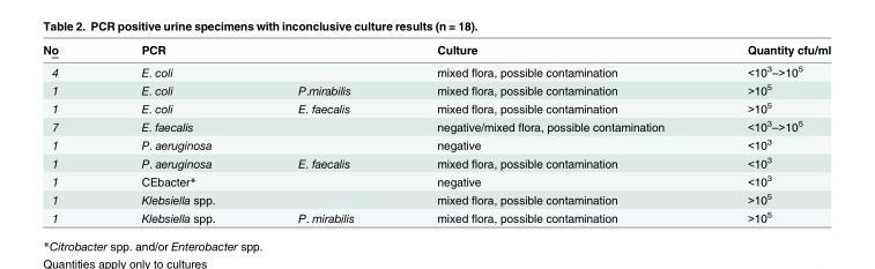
<table><thead><tr><td>No</td><td>PCR</td><td></td><td>Culture</td><td>Quantity cfu/ml</td></tr></thead><tbody><tr><td>4</td><td>E. coli</td><td></td><td>mixed flora, possible contamination</td><td>&lt;10<sup>3</sup>–&gt;10<sup>5</sup></td></tr><tr><td>1</td><td>E. coli</td><td>P.mirabilis</td><td>mixed flora, possible contamination</td><td>&gt;10<sup>5</sup></td></tr><tr><td>1</td><td>E. coli</td><td>E. faecalis</td><td>mixed flora, possible contamination</td><td>&gt;10<sup>5</sup></td></tr><tr><td>7</td><td>E. faecalis</td><td></td><td>negative/mixed flora, possible contamination</td><td>&lt;10<sup>3</sup>–&gt;10<sup>5</sup></td></tr><tr><td>1</td><td>P. aeruginosa</td><td></td><td>negative</td><td>&lt;10<sup>3</sup></td></tr><tr><td>1</td><td>P. aeruginosa</td><td>E. faecalis</td><td>mixed flora, possible contamination</td><td>&lt;10<sup>3</sup></td></tr><tr><td>1</td><td>CEbacter*</td><td></td><td>negative</td><td>&lt;10<sup>3</sup></td></tr><tr><td>1</td><td colspan="2">Klebsiella spp.</td><td>mixed flora, possible contamination</td><td>&gt;10<sup>5</sup></td></tr><tr><td>1</td><td>Klebsiella spp.</td><td>P. mirabilis</td><td>mixed flora, possible contamination</td><td>&gt;10<sup>5</sup></td></tr></tbody></table>